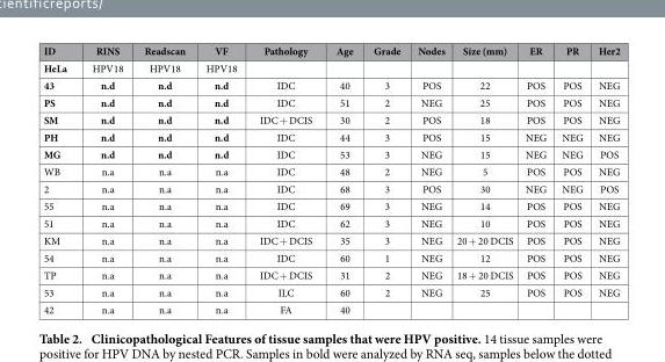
<table><thead><tr><td>ID</td><td>RINS</td><td>Readscan</td><td>VF</td><td>Pathology</td><td>Age</td><td>Grade</td><td>Nodes</td><td>Size (mm)</td><td>ER</td><td>PR</td><td>Her2</td></tr></thead><tbody><tr><td>HeLa</td><td>HPV18</td><td>HPV18</td><td>HPV18</td><td></td><td></td><td></td><td></td><td></td><td></td><td></td><td></td></tr><tr><td>43</td><td>n.d</td><td>n.d</td><td>n.d</td><td>IDC</td><td>40</td><td>3</td><td>POS</td><td>22</td><td>POS</td><td>POS</td><td>NEG</td></tr><tr><td>PS</td><td>n.d</td><td>n.d</td><td>n.d</td><td>IDC</td><td>51</td><td>2</td><td>NEG</td><td>25</td><td>POS</td><td>POS</td><td>NEG</td></tr><tr><td>SM</td><td>n.d</td><td>n.d</td><td>n.d</td><td>IDC + DCIS</td><td>30</td><td>2</td><td>POS</td><td>18</td><td>POS</td><td>POS</td><td>NEG</td></tr><tr><td>PH</td><td>n.d</td><td>n.d</td><td>n.d</td><td>IDC</td><td>44</td><td>3</td><td>POS</td><td>15</td><td>NEG</td><td>NEG</td><td>NEG</td></tr><tr><td>MG</td><td>n.d</td><td>n.d</td><td>n.d</td><td>IDC</td><td>53</td><td>3</td><td>NEG</td><td>15</td><td>NEG</td><td>NEG</td><td>POS</td></tr><tr><td>WB</td><td>n.a</td><td>n.a</td><td>n.a</td><td>IDC</td><td>48</td><td>2</td><td>NEG</td><td>5</td><td>POS</td><td>POS</td><td>NEG</td></tr><tr><td>2</td><td>n.a</td><td>n.a</td><td>n.a</td><td>IDC</td><td>68</td><td>3</td><td>POS</td><td>30</td><td>NEG</td><td>NEG</td><td>POS</td></tr><tr><td>55</td><td>n.a</td><td>n.a</td><td>n.a</td><td>IDC</td><td>69</td><td>3</td><td>NEG</td><td>14</td><td>POS</td><td>POS</td><td>NEG</td></tr><tr><td>51</td><td>n.a</td><td>n.a</td><td>n.a</td><td>IDC</td><td>62</td><td>3</td><td>NEG</td><td>10</td><td>POS</td><td>POS</td><td>NEG</td></tr><tr><td>KM</td><td>n.a</td><td>n.a</td><td>n.a</td><td>IDC + DCIS</td><td>35</td><td>3</td><td>NEG</td><td>20 + 20 DCIS</td><td>POS</td><td>POS</td><td>NEG</td></tr><tr><td>54</td><td>n.a</td><td>n.a</td><td>n.a</td><td>IDC</td><td>60</td><td>1</td><td>NEG</td><td>12</td><td>POS</td><td>POS</td><td>NEG</td></tr><tr><td>TP</td><td>n.a</td><td>n.a</td><td>n.a</td><td>IDC + DCIS</td><td>31</td><td>2</td><td>NEG</td><td>18 + 20 DCIS</td><td>POS</td><td>POS</td><td>NEG</td></tr><tr><td>53</td><td>n.a</td><td>n.a</td><td>n.a</td><td>ILC</td><td>60</td><td>2</td><td>NEG</td><td>25</td><td>POS</td><td>POS</td><td>NEG</td></tr><tr><td>42</td><td>n.a</td><td>n.a</td><td>n.a</td><td>FA</td><td>40</td><td></td><td></td><td></td><td></td><td></td><td></td></tr></tbody></table>